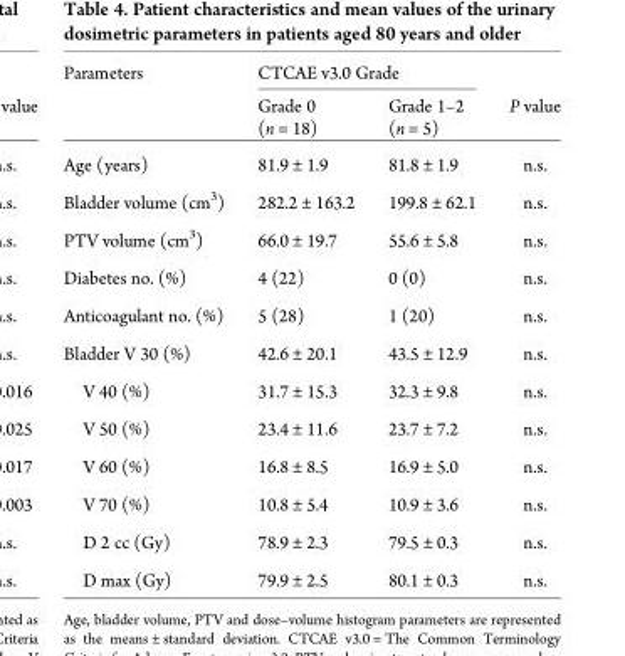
<table><thead><tr><td rowspan="2">Parameters</td><td colspan="2">CTCAE v3.0 Grade</td><td rowspan="2">P value</td></tr><tr><td>Grade 0 (n = 18)</td><td>Grade 1–2 (n = 5)</td></tr></thead><tbody><tr><td>Age (years)</td><td>81.9 ± 1.9</td><td>81.8 ± 1.9</td><td>n.s.</td></tr><tr><td>Bladder volume (cm<sup>3</sup>)</td><td>282.2 ± 163.2</td><td>199.8 ± 62.1</td><td>n.s.</td></tr><tr><td>PTV volume (cm<sup>3</sup>)</td><td>66.0 ± 19.7</td><td>55.6 ± 5.8</td><td>n.s.</td></tr><tr><td>Diabetes no. (%)</td><td>4 (22)</td><td>0 (0)</td><td>n.s.</td></tr><tr><td>Anticoagulant no. (%)</td><td>5 (28)</td><td>1 (20)</td><td>n.s.</td></tr><tr><td>Bladder V 30 (%)</td><td>42.6 ± 20.1</td><td>43.5 ± 12.9</td><td>n.s.</td></tr><tr><td>V 40 (%)</td><td>31.7 ± 15.3</td><td>32.3 ± 9.8</td><td>n.s.</td></tr><tr><td>V 50 (%)</td><td>23.4 ± 11.6</td><td>23.7 ± 7.2</td><td>n.s.</td></tr><tr><td>V 60 (%)</td><td>16.8 ± 8.5</td><td>16.9 ± 5.0</td><td>n.s.</td></tr><tr><td>V 70 (%)</td><td>10.8 ± 5.4</td><td>10.9 ± 3.6</td><td>n.s.</td></tr><tr><td>D 2 cc (Gy)</td><td>78.9 ± 2.3</td><td>79.5 ± 0.3</td><td>n.s.</td></tr><tr><td>D max (Gy)</td><td>79.9 ± 2.5</td><td>80.1 ± 0.3</td><td>n.s.</td></tr></tbody></table>